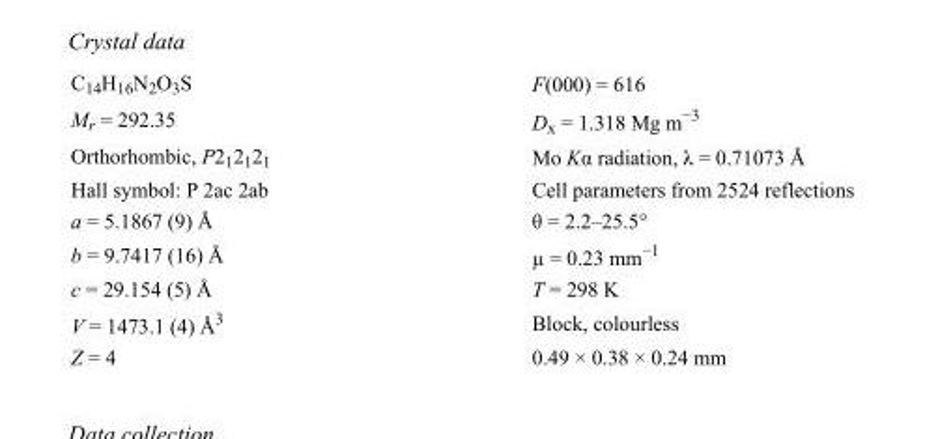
<table><tbody><tr><td>C<sub>14</sub>H<sub>16</sub>N<sub>2</sub>O<sub>3</sub>S</td><td>F(000) = 616</td></tr><tr><td>M<sub>r</sub> = 292.35</td><td>D<sub>x</sub> = 1.318 Mg m<sup>−3</sup></td></tr><tr><td>Orthorhombic, P2<sub>1</sub>2<sub>1</sub>2<sub>1</sub></td><td>Mo Kα radiation, λ = 0.71073 Å</td></tr><tr><td>Hall symbol: P 2ac 2ab</td><td>Cell parameters from 2524 reflections</td></tr><tr><td>a = 5.1867 (9) Å</td><td>θ = 2.2–25.5°</td></tr><tr><td>b = 9.7417 (16) Å</td><td>µ = 0.23 mm<sup>−1</sup></td></tr><tr><td>c = 29.154 (5) Å</td><td>T = 298 K</td></tr><tr><td>V = 1473.1 (4) Å<sup>3</sup></td><td>Block, colourless</td></tr><tr><td>Z = 4</td><td>0.49 × 0.38 × 0.24 mm</td></tr></tbody></table>